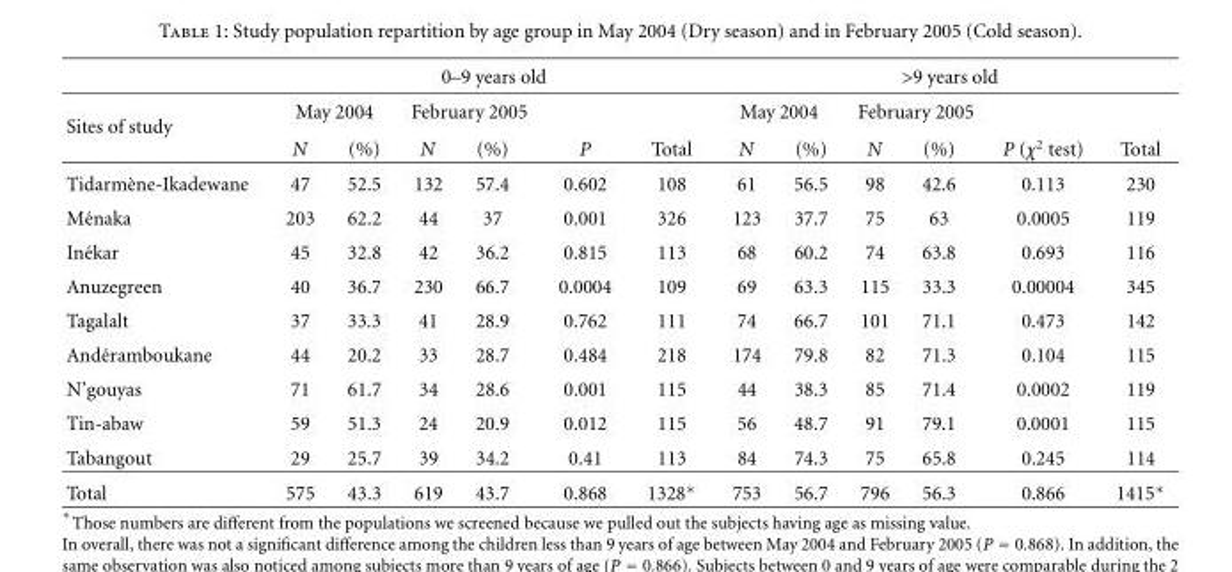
<table><thead><tr><td rowspan="3">Sites of study</td><td colspan="6">0–9 years old</td><td colspan="6">&gt;9 years old</td></tr><tr><td colspan="2">May 2004</td><td colspan="2">February 2005</td><td rowspan="2">P</td><td rowspan="2">Total</td><td colspan="2">May 2004</td><td colspan="2">February 2005</td><td rowspan="2">P (χ<sup>2</sup> test)</td><td rowspan="2">Total</td></tr><tr><td>N</td><td>(%)</td><td>N</td><td>(%)</td><td>N</td><td>(%)</td><td>N</td><td>(%)</td></tr></thead><tbody><tr><td>Tidarm`ene-Ikadewane</td><td>47</td><td>52.5</td><td>132</td><td>57.4</td><td>0.602</td><td>108</td><td>61</td><td>56.5</td><td>98</td><td>42.6</td><td>0.113</td><td>230</td></tr><tr><td>M´enaka</td><td>203</td><td>62.2</td><td>44</td><td>37</td><td>0.001</td><td>326</td><td>123</td><td>37.7</td><td>75</td><td>63</td><td>0.0005</td><td>119</td></tr><tr><td>In´ekar</td><td>45</td><td>32.8</td><td>42</td><td>36.2</td><td>0.815</td><td>113</td><td>68</td><td>60.2</td><td>74</td><td>63.8</td><td>0.693</td><td>116</td></tr><tr><td>Anuzegreen</td><td>40</td><td>36.7</td><td>230</td><td>66.7</td><td>0.0004</td><td>109</td><td>69</td><td>63.3</td><td>115</td><td>33.3</td><td>0.00004</td><td>345</td></tr><tr><td>Tagalalt</td><td>37</td><td>33.3</td><td>41</td><td>28.9</td><td>0.762</td><td>111</td><td>74</td><td>66.7</td><td>101</td><td>71.1</td><td>0.473</td><td>142</td></tr><tr><td>And´eramboukane</td><td>44</td><td>20.2</td><td>33</td><td>28.7</td><td>0.484</td><td>218</td><td>174</td><td>79.8</td><td>82</td><td>71.3</td><td>0.104</td><td>115</td></tr><tr><td>N’gouyas</td><td>71</td><td>61.7</td><td>34</td><td>28.6</td><td>0.001</td><td>115</td><td>44</td><td>38.3</td><td>85</td><td>71.4</td><td>0.0002</td><td>119</td></tr><tr><td>Tin-abaw</td><td>59</td><td>51.3</td><td>24</td><td>20.9</td><td>0.012</td><td>115</td><td>56</td><td>48.7</td><td>91</td><td>79.1</td><td>0.0001</td><td>115</td></tr><tr><td>Tabangout</td><td>29</td><td>25.7</td><td>39</td><td>34.2</td><td>0.41</td><td>113</td><td>84</td><td>74.3</td><td>75</td><td>65.8</td><td>0.245</td><td>114</td></tr><tr><td>Total</td><td>575</td><td>43.3</td><td>619</td><td>43.7</td><td>0.868</td><td>1328∗</td><td>753</td><td>56.7</td><td>796</td><td>56.3</td><td>0.866</td><td>1415∗</td></tr></tbody></table>